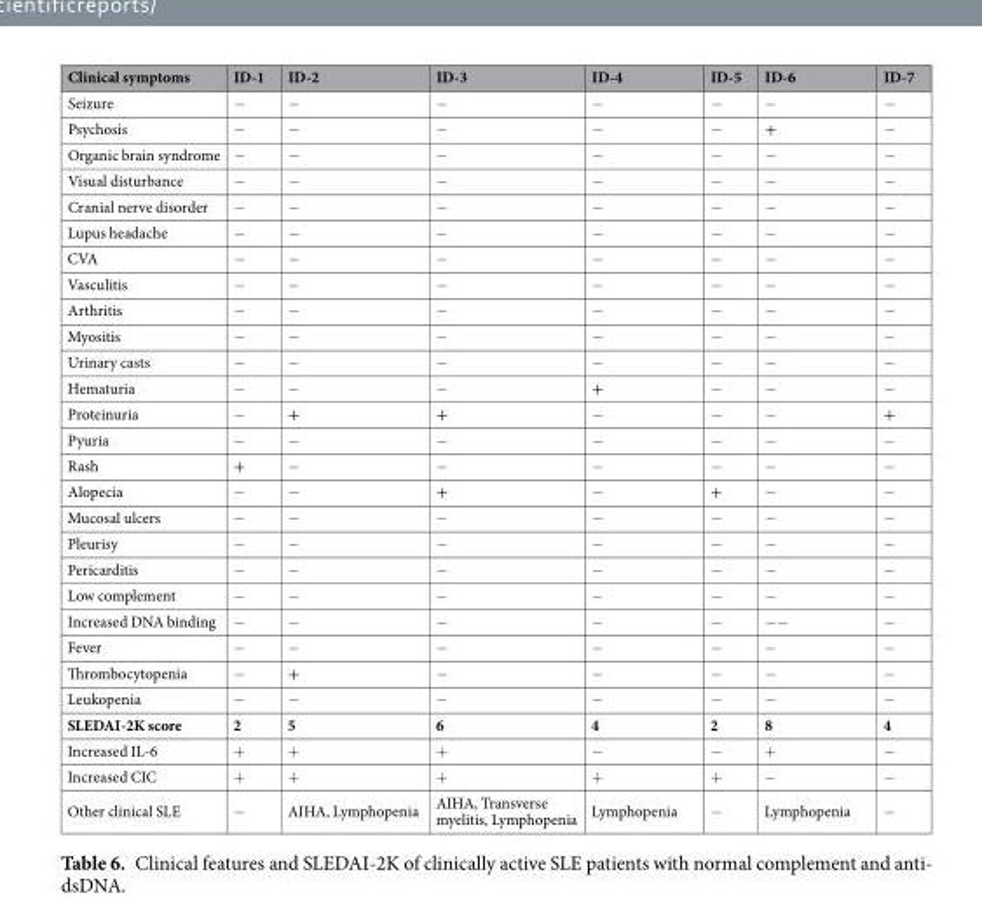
<table><thead><tr><td>Clinical symptoms</td><td>ID-1</td><td>ID-2</td><td>ID-3</td><td>ID-4</td><td>ID-5</td><td>ID-6</td><td>ID-7</td></tr></thead><tbody><tr><td>Seizure</td><td>−</td><td>−</td><td>−</td><td>−</td><td>−</td><td>−</td><td>−</td></tr><tr><td>Psychosis</td><td>−</td><td>−</td><td>−</td><td>−</td><td>−</td><td>+</td><td>−</td></tr><tr><td>Organic brain syndrome</td><td>−</td><td>−</td><td>−</td><td>−</td><td>−</td><td>−</td><td>−</td></tr><tr><td>Visual disturbance</td><td>−</td><td>−</td><td>−</td><td>−</td><td>−</td><td>−</td><td>−</td></tr><tr><td>Cranial nerve disorder</td><td>−</td><td>−</td><td>−</td><td>−</td><td>−</td><td>−</td><td>−</td></tr><tr><td>Lupus headache</td><td>−</td><td>−</td><td>−</td><td>−</td><td>−</td><td>−</td><td>−</td></tr><tr><td>CVA</td><td>−</td><td>−</td><td>−</td><td>−</td><td>−</td><td>−</td><td>−</td></tr><tr><td>Vasculitis</td><td>−</td><td>−</td><td>−</td><td>−</td><td>−</td><td>−</td><td>−</td></tr><tr><td>Arthritis</td><td>−</td><td>−</td><td>−</td><td>−</td><td>−</td><td>−</td><td>−</td></tr><tr><td>Myositis</td><td>−</td><td>−</td><td>−</td><td>−</td><td>−</td><td>−</td><td>−</td></tr><tr><td>Urinary casts</td><td>−</td><td>−</td><td>−</td><td>−</td><td>−</td><td>−</td><td>−</td></tr><tr><td>Hematuria</td><td>−</td><td>−</td><td>−</td><td>+</td><td>−</td><td>−</td><td>−</td></tr><tr><td>Proteinuria</td><td>−</td><td>+</td><td>+</td><td>−</td><td>−</td><td>−</td><td>+</td></tr><tr><td>Pyuria</td><td>−</td><td>−</td><td>−</td><td>−</td><td>−</td><td>−</td><td>−</td></tr><tr><td>Rash</td><td>+</td><td>−</td><td>−</td><td>−</td><td>−</td><td>−</td><td>−</td></tr><tr><td>Alopecia</td><td>−</td><td>−</td><td>+</td><td>−</td><td>+</td><td>−</td><td>−</td></tr><tr><td>Mucosal ulcers</td><td>−</td><td>−</td><td>−</td><td>−</td><td>−</td><td>−</td><td>−</td></tr><tr><td>Pleurisy</td><td>−</td><td>−</td><td>−</td><td>−</td><td>−</td><td>−</td><td>−</td></tr><tr><td>Pericarditis</td><td>−</td><td>−</td><td>−</td><td>−</td><td>−</td><td>−</td><td>−</td></tr><tr><td>Low complement</td><td>−</td><td>−</td><td>−</td><td>−</td><td>−</td><td>−</td><td>−</td></tr><tr><td>Increased DNA binding</td><td>−</td><td>−</td><td>−</td><td>−</td><td>−</td><td>−−</td><td>−</td></tr><tr><td>Fever</td><td>−</td><td>−</td><td>−</td><td>−</td><td>−</td><td>−</td><td>−</td></tr><tr><td>Thrombocytopenia</td><td>−</td><td>+</td><td>−</td><td>−</td><td>−</td><td>−</td><td>−</td></tr><tr><td>Leukopenia</td><td>−</td><td>−</td><td>−</td><td>−</td><td>−</td><td>−</td><td>−</td></tr><tr><td>SLEDAI-2K score</td><td>2</td><td>5</td><td>6</td><td>4</td><td>2</td><td>8</td><td>4</td></tr><tr><td>Increased IL-6</td><td>+</td><td>+</td><td>+</td><td>−</td><td>−</td><td>+</td><td>−</td></tr><tr><td>Increased CIC</td><td>+</td><td>+</td><td>+</td><td>+</td><td>+</td><td>−</td><td>−</td></tr><tr><td>Other clinical SLE</td><td>−</td><td>AIHA, Lymphopenia</td><td>AIHA, Transverse myelitis, Lymphopenia</td><td>Lymphopenia</td><td>−</td><td>Lymphopenia</td><td>−</td></tr></tbody></table>